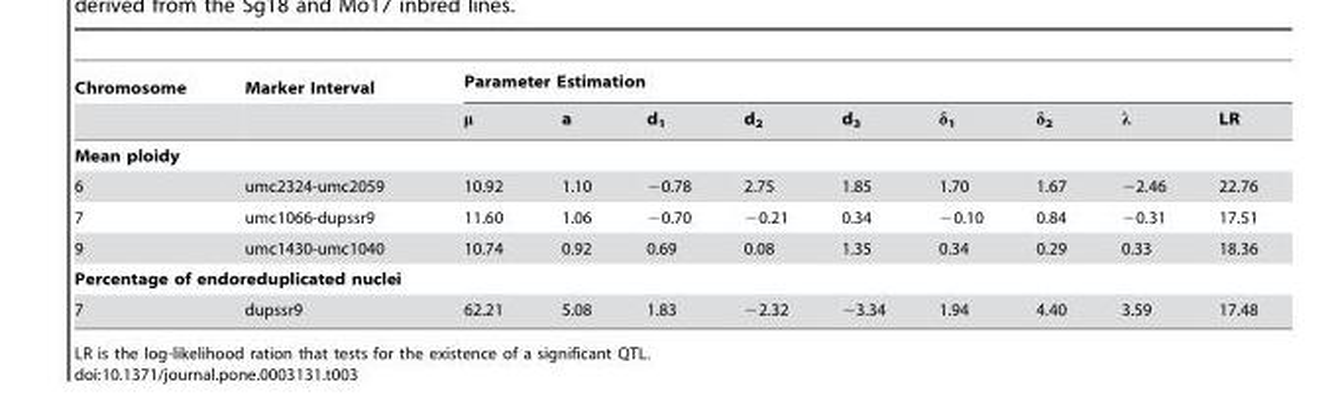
<table><thead><tr><td rowspan="2">Chromosome</td><td rowspan="2">Marker Interval</td><td colspan="9">Parameter Estimation</td></tr><tr><td>μ</td><td>a</td><td>d<sub>1</sub></td><td>d<sub>2</sub></td><td>d<sub>3</sub></td><td>δ<sub>1</sub></td><td>δ<sub>2</sub></td><td>λ</td><td>LR</td></tr></thead><tbody><tr><td colspan="11">Mean ploidy</td></tr><tr><td>6</td><td>umc2324-umc2059</td><td>10.92</td><td>1.10</td><td>−0.78</td><td>2.75</td><td>1.85</td><td>1.70</td><td>1.67</td><td>−2.46</td><td>22.76</td></tr><tr><td>7</td><td>umc1066-dupssr9</td><td>11.60</td><td>1.06</td><td>−0.70</td><td>−0.21</td><td>0.34</td><td>−0.10</td><td>0.84</td><td>−0.31</td><td>17.51</td></tr><tr><td>9</td><td>umc1430-umc1040</td><td>10.74</td><td>0.92</td><td>0.69</td><td>0.08</td><td>1.35</td><td>0.34</td><td>0.29</td><td>0.33</td><td>18.36</td></tr><tr><td colspan="11">Percentage of endoreduplicated nuclei</td></tr><tr><td>7</td><td>dupssr9</td><td>62.21</td><td>5.08</td><td>1.83</td><td>−2.32</td><td>−3.34</td><td>1.94</td><td>4.40</td><td>3.59</td><td>17.48</td></tr></tbody></table>